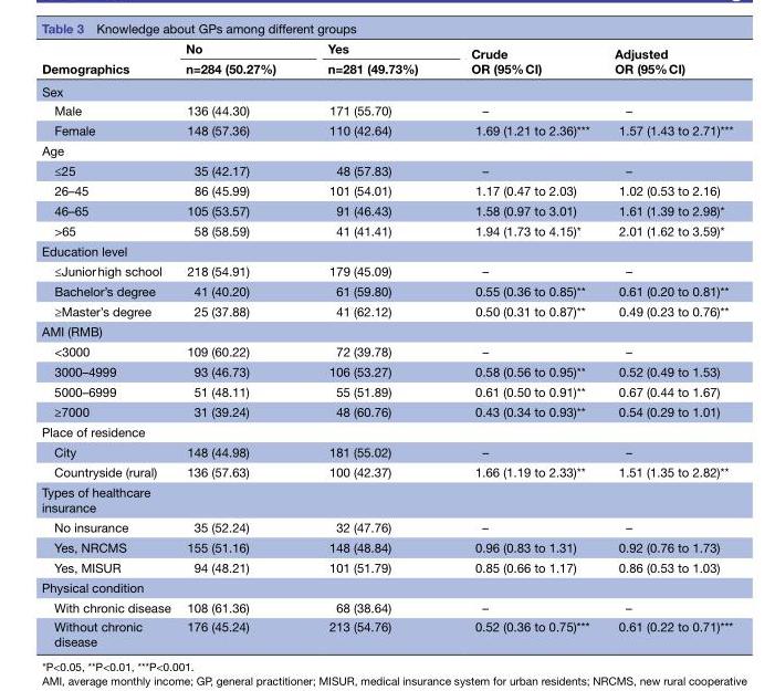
<table><thead><tr><td rowspan="2">Demographics</td><td rowspan="2">No n=284 (50.27%)</td><td rowspan="2">Yes n=281 (49.73%)</td><td rowspan="2">Crude OR (95% CI)</td><td rowspan="2">Adjusted OR (95% CI)</td></tr><tr></tr></thead><tbody><tr><td colspan="5">Sex</td></tr><tr><td>Male</td><td>136 (44.30)</td><td>171 (55.70)</td><td>–</td><td>–</td></tr><tr><td>Female</td><td>148 (57.36)</td><td>110 (42.64)</td><td>1.69 (1.21 to 2.36)***</td><td>1.57 (1.43 to 2.71)***</td></tr><tr><td colspan="5">Age</td></tr><tr><td>≤25</td><td>35 (42.17)</td><td>48 (57.83)</td><td>–</td><td>–</td></tr><tr><td>26–45</td><td>86 (45.99)</td><td>101 (54.01)</td><td>1.17 (0.47 to 2.03)</td><td>1.02 (0.53 to 2.16)</td></tr><tr><td>46–65</td><td>105 (53.57)</td><td>91 (46.43)</td><td>1.58 (0.97 to 3.01)</td><td>1.61 (1.39 to 2.98)*</td></tr><tr><td>&gt;65</td><td>58 (58.59)</td><td>41 (41.41)</td><td>1.94 (1.73 to 4.15)*</td><td>2.01 (1.62 to 3.59)*</td></tr><tr><td colspan="5">Education level</td></tr><tr><td>≤Junior high school</td><td>218 (54.91)</td><td>179 (45.09)</td><td>–</td><td>–</td></tr><tr><td>Bachelor’s degree</td><td>41 (40.20)</td><td>61 (59.80)</td><td>0.55 (0.36 to 0.85)**</td><td>0.61 (0.20 to 0.81)**</td></tr><tr><td>≥Master’s degree</td><td>25 (37.88)</td><td>41 (62.12)</td><td>0.50 (0.31 to 0.87)**</td><td>0.49 (0.23 to 0.76)**</td></tr><tr><td colspan="5">AMI (RMB)</td></tr><tr><td>&lt;3000</td><td>109 (60.22)</td><td>72 (39.78)</td><td>–</td><td>–</td></tr><tr><td>3000–4999</td><td>93 (46.73)</td><td>106 (53.27)</td><td>0.58 (0.56 to 0.95)**</td><td>0.52 (0.49 to 1.53)</td></tr><tr><td>5000–6999</td><td>51 (48.11)</td><td>55 (51.89)</td><td>0.61 (0.50 to 0.91)**</td><td>0.67 (0.44 to 1.67)</td></tr><tr><td>≥7000</td><td>31 (39.24)</td><td>48 (60.76)</td><td>0.43 (0.34 to 0.93)**</td><td>0.54 (0.29 to 1.01)</td></tr><tr><td colspan="5">Place of residence</td></tr><tr><td>City</td><td>148 (44.98)</td><td>181 (55.02)</td><td>–</td><td>–</td></tr><tr><td>Countryside (rural)</td><td>136 (57.63)</td><td>100 (42.37)</td><td>1.66 (1.19 to 2.33)**</td><td>1.51 (1.35 to 2.82)**</td></tr><tr><td colspan="5">Types of healthcare insurance</td></tr><tr><td>No insurance</td><td>35 (52.24)</td><td>32 (47.76)</td><td>–</td><td>–</td></tr><tr><td>Yes, NRCMS</td><td>155 (51.16)</td><td>148 (48.84)</td><td>0.96 (0.83 to 1.31)</td><td>0.92 (0.76 to 1.73)</td></tr><tr><td>Yes, MISUR</td><td>94 (48.21)</td><td>101 (51.79)</td><td>0.85 (0.66 to 1.17)</td><td>0.86 (0.53 to 1.03)</td></tr><tr><td colspan="5">Physical condition</td></tr><tr><td>With chronic disease</td><td>108 (61.36)</td><td>68 (38.64)</td><td>–</td><td>–</td></tr><tr><td>Without chronic disease</td><td>176 (45.24)</td><td>213 (54.76)</td><td>0.52 (0.36 to 0.75)***</td><td>0.61 (0.22 to 0.71)***</td></tr></tbody></table>